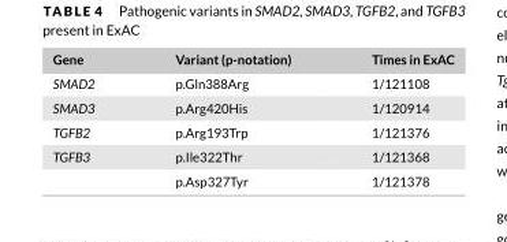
<table><thead><tr><td>Gene</td><td>Variant (p-notation)</td><td>Times in ExAC</td></tr></thead><tbody><tr><td>SMAD2</td><td>p.Gln388Arg</td><td>1/121108</td></tr><tr><td>SMAD3</td><td>p.Arg420His</td><td>1/120914</td></tr><tr><td>TGFB2</td><td>p.Arg193Trp</td><td>1/121376</td></tr><tr><td rowspan="2">TGFB3</td><td>p.Ile322Thr</td><td>1/121368</td></tr><tr><td>p.Asp327Tyr</td><td>1/121378</td></tr></tbody></table>